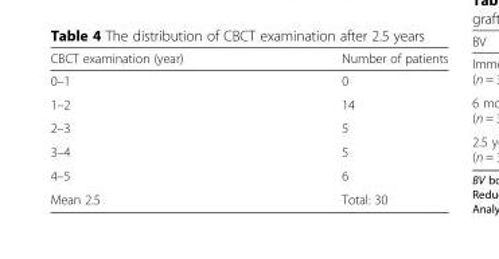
<table><thead><tr><td>CBCT examination (year)</td><td>Number of patients</td></tr></thead><tbody><tr><td>0–1</td><td>0</td></tr><tr><td>1–2</td><td>14</td></tr><tr><td>2–3</td><td>5</td></tr><tr><td>3–4</td><td>5</td></tr><tr><td>4–5</td><td>6</td></tr><tr><td>Mean 2.5</td><td>Total: 30</td></tr></tbody></table>